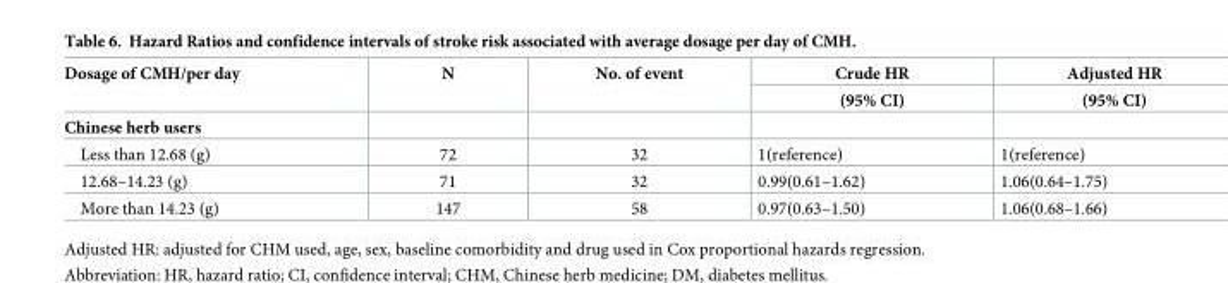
<table><thead><tr><td rowspan="2">Dosage of CMH/per day</td><td rowspan="2">N</td><td rowspan="2">No. of event</td><td rowspan="2">Crude HR (95% CI)</td><td rowspan="2">Adjusted HR (95% CI)</td></tr><tr></tr></thead><tbody><tr><td colspan="5">Chinese herb users</td></tr><tr><td>Less than 12.68 (g)</td><td>72</td><td>32</td><td>1(reference)</td><td>1(reference)</td></tr><tr><td>12.68–14.23 (g)</td><td>71</td><td>32</td><td>0.99(0.61–1.62)</td><td>1.06(0.64–1.75)</td></tr><tr><td>More than 14.23 (g)</td><td>147</td><td>58</td><td>0.97(0.63–1.50)</td><td>1.06(0.68–1.66)</td></tr></tbody></table>